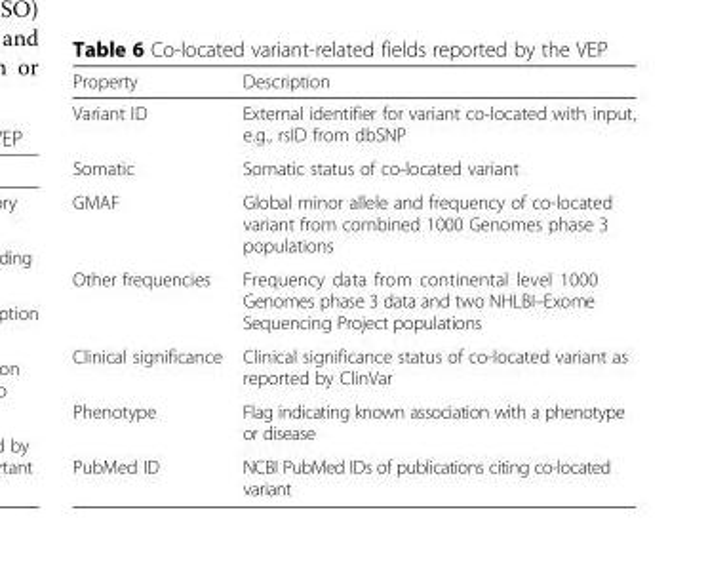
<table><thead><tr><td>Property</td><td>Description</td></tr></thead><tbody><tr><td>Variant ID</td><td>External identifier for variant co-located with input, e.g., rsID from dbSNP</td></tr><tr><td>Somatic</td><td>Somatic status of co-located variant</td></tr><tr><td>GMAF</td><td>Global minor allele and frequency of co-located variant from combined 1000 Genomes phase 3 populations</td></tr><tr><td>Other frequencies</td><td>Frequency data from continental level 1000 Genomes phase 3 data and two NHLBI–Exome Sequencing Project populations</td></tr><tr><td>Clinical significance</td><td>Clinical significance status of co-located variant as reported by ClinVar</td></tr><tr><td>Phenotype</td><td>Flag indicating known association with a phenotype or disease</td></tr><tr><td>PubMed ID</td><td>NCBI PubMed IDs of publications citing co-located variant</td></tr></tbody></table>